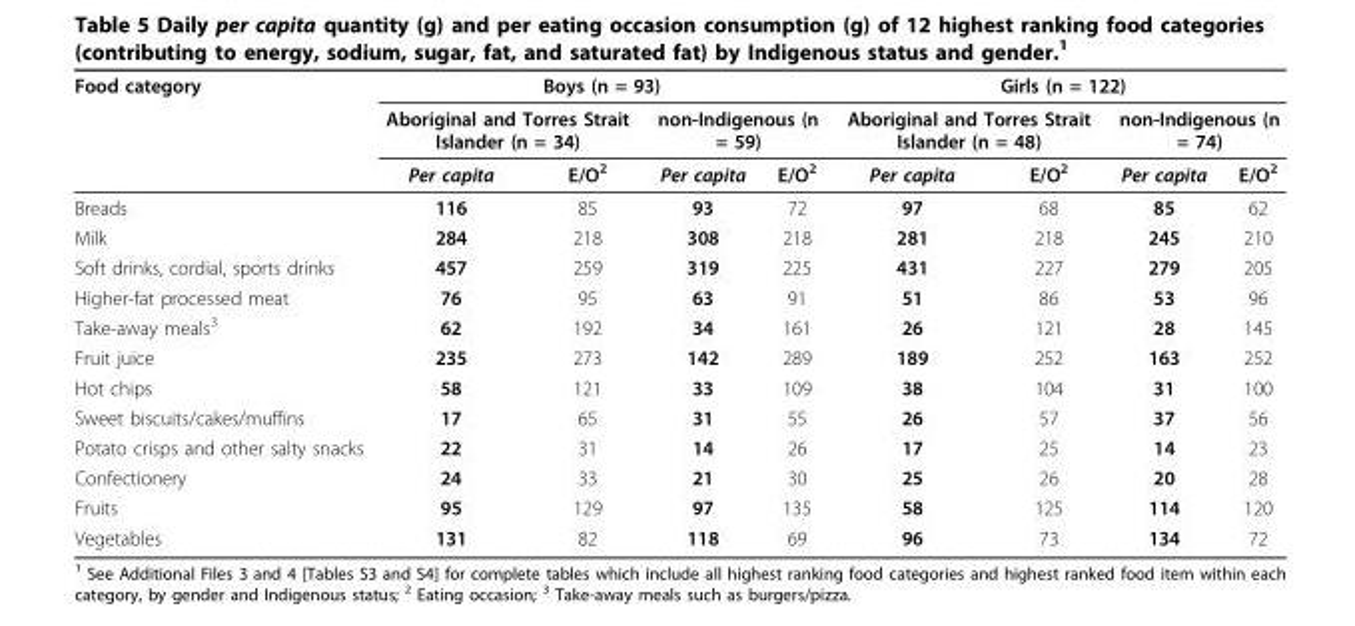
<table><thead><tr><td rowspan="3">Food category</td><td colspan="4">Boys (n = 93)</td><td colspan="4">Girls (n = 122)</td></tr><tr><td colspan="2">Aboriginal and Torres Strait Islander (n = 34)</td><td colspan="2">non-Indigenous (n = 59)</td><td colspan="2">Aboriginal and Torres Strait Islander (n = 48)</td><td colspan="2">non-Indigenous (n = 74)</td></tr><tr><td>Per capita</td><td>E/O<sup>2</sup></td><td>Per capita</td><td>E/O<sup>2</sup></td><td>Per capita</td><td>E/O<sup>2</sup></td><td>Per capita</td><td>E/O<sup>2</sup></td></tr></thead><tbody><tr><td>Breads</td><td>116</td><td>85</td><td>93</td><td>72</td><td>97</td><td>68</td><td>85</td><td>62</td></tr><tr><td>Milk</td><td>284</td><td>218</td><td>308</td><td>218</td><td>281</td><td>218</td><td>245</td><td>210</td></tr><tr><td>Soft drinks, cordial, sports drinks</td><td>457</td><td>259</td><td>319</td><td>225</td><td>431</td><td>227</td><td>279</td><td>205</td></tr><tr><td>Higher-fat processed meat</td><td>76</td><td>95</td><td>63</td><td>91</td><td>51</td><td>86</td><td>53</td><td>96</td></tr><tr><td>Take-away meals<sup>3</sup></td><td>62</td><td>192</td><td>34</td><td>161</td><td>26</td><td>121</td><td>28</td><td>145</td></tr><tr><td>Fruit juice</td><td>235</td><td>273</td><td>142</td><td>289</td><td>189</td><td>252</td><td>163</td><td>252</td></tr><tr><td>Hot chips</td><td>58</td><td>121</td><td>33</td><td>109</td><td>38</td><td>104</td><td>31</td><td>100</td></tr><tr><td>Sweet biscuits/cakes/muffins</td><td>17</td><td>65</td><td>31</td><td>55</td><td>26</td><td>57</td><td>37</td><td>56</td></tr><tr><td>Potato crisps and other salty snacks</td><td>22</td><td>31</td><td>14</td><td>26</td><td>17</td><td>25</td><td>14</td><td>23</td></tr><tr><td>Confectionery</td><td>24</td><td>33</td><td>21</td><td>30</td><td>25</td><td>26</td><td>20</td><td>28</td></tr><tr><td>Fruits</td><td>95</td><td>129</td><td>97</td><td>135</td><td>58</td><td>125</td><td>114</td><td>120</td></tr><tr><td>Vegetables</td><td>131</td><td>82</td><td>118</td><td>69</td><td>96</td><td>73</td><td>134</td><td>72</td></tr></tbody></table>